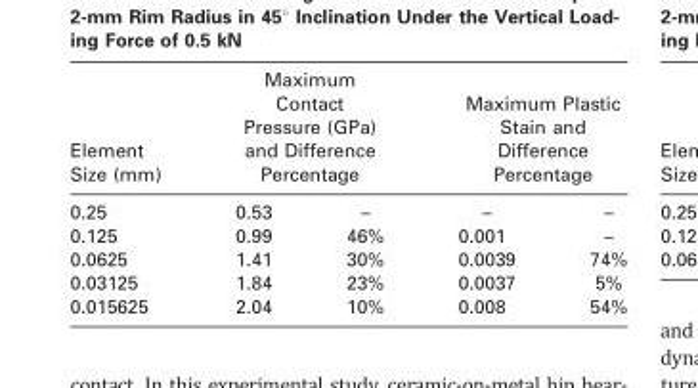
<table><thead><tr><td rowspan="2">Element Size (mm) 0.25</td><td colspan="2">Maximum Contact Pressure (GPa) and Difference Percentage</td><td colspan="2">Maximum Plastic Stain and Difference Percentage</td></tr><tr><td>0.53</td><td>–</td><td>–</td><td>–</td></tr></thead><tbody><tr><td>0.125</td><td>0.99</td><td>46%</td><td>0.001</td><td>–</td></tr><tr><td>0.0625</td><td>1.41</td><td>30%</td><td>0.0039</td><td>74%</td></tr><tr><td>0.03125</td><td>1.84</td><td>23%</td><td>0.0037</td><td>5%</td></tr><tr><td>0.015625</td><td>2.04</td><td>10%</td><td>0.008</td><td>54%</td></tr></tbody></table>